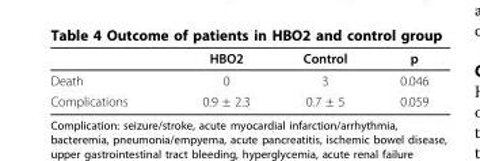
<table><thead><tr><td></td><td>HBO2</td><td>Control</td><td>p</td></tr></thead><tbody><tr><td>Death</td><td>0</td><td>3</td><td>0.046</td></tr><tr><td>Complications</td><td>0.9 ± 2.3</td><td>0.7 ± 5</td><td>0.059</td></tr></tbody></table>